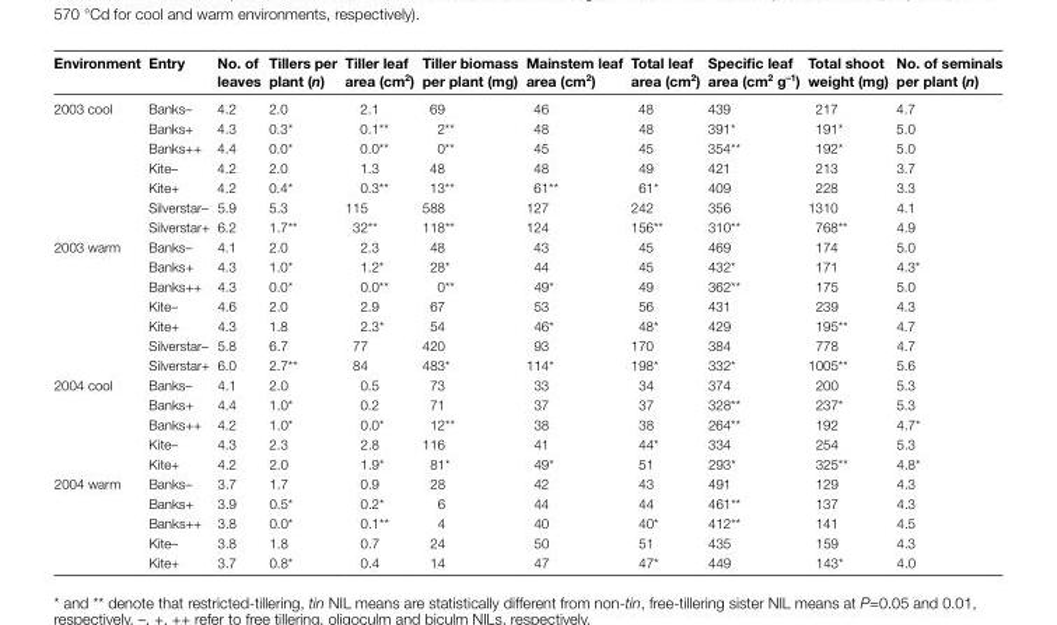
<table><thead><tr><td>Environment</td><td>Entry</td><td>No. of leaves</td><td>Tillers per plant (n)</td><td>Tiller leaf area (cm<sup>2</sup>)</td><td>Tiller biomass per plant (mg)</td><td>Mainstem leaf area (cm<sup>2</sup>)</td><td>Total leaf area (cm<sup>2</sup>)</td><td>Specific leaf area (cm<sup>2</sup> g<sup>–1</sup>)</td><td>Total shoot weight (mg)</td><td>No. of seminals per plant (n)</td></tr></thead><tbody><tr><td rowspan="7">2003 cool</td><td>Banks–</td><td>4.2</td><td>2.0</td><td>2.1</td><td>69</td><td>46</td><td>48</td><td>439</td><td>217</td><td>4.7</td></tr><tr><td>Banks+</td><td>4.3</td><td>0.3*</td><td>0.1**</td><td>2**</td><td>48</td><td>48</td><td>391*</td><td>191*</td><td>5.0</td></tr><tr><td>Banks++</td><td>4.4</td><td>0.0*</td><td>0.0**</td><td>0**</td><td>45</td><td>45</td><td>354**</td><td>192*</td><td>5.0</td></tr><tr><td>Kite–</td><td>4.2</td><td>2.0</td><td>1.3</td><td>48</td><td>48</td><td>49</td><td>421</td><td>213</td><td>3.7</td></tr><tr><td>Kite+</td><td>4.2</td><td>0.4*</td><td>0.3**</td><td>13**</td><td>61**</td><td>61*</td><td>409</td><td>228</td><td>3.3</td></tr><tr><td>Silverstar–</td><td>5.9</td><td>5.3</td><td>115</td><td>588</td><td>127</td><td>242</td><td>356</td><td>1310</td><td>4.1</td></tr><tr><td>Silverstar+</td><td>6.2</td><td>1.7**</td><td>32**</td><td>118**</td><td>124</td><td>156**</td><td>310**</td><td>768**</td><td>4.9</td></tr><tr><td rowspan="7">2003 warm</td><td>Banks–</td><td>4.1</td><td>2.0</td><td>2.3</td><td>48</td><td>43</td><td>45</td><td>469</td><td>174</td><td>5.0</td></tr><tr><td>Banks+</td><td>4.3</td><td>1.0*</td><td>1.2*</td><td>28*</td><td>44</td><td>45</td><td>432*</td><td>171</td><td>4.3*</td></tr><tr><td>Banks++</td><td>4.3</td><td>0.0*</td><td>0.0**</td><td>0**</td><td>49*</td><td>49</td><td>362**</td><td>175</td><td>5.0</td></tr><tr><td>Kite–</td><td>4.6</td><td>2.0</td><td>2.9</td><td>67</td><td>53</td><td>56</td><td>431</td><td>239</td><td>4.3</td></tr><tr><td>Kite+</td><td>4.3</td><td>1.8</td><td>2.3*</td><td>54</td><td>46*</td><td>48*</td><td>429</td><td>195**</td><td>4.7</td></tr><tr><td>Silverstar–</td><td>5.8</td><td>6.7</td><td>77</td><td>420</td><td>93</td><td>170</td><td>384</td><td>778</td><td>4.7</td></tr><tr><td>Silverstar+</td><td>6.0</td><td>2.7**</td><td>84</td><td>483*</td><td>114*</td><td>198*</td><td>332*</td><td>1005**</td><td>5.6</td></tr><tr><td rowspan="5">2004 cool</td><td>Banks–</td><td>4.1</td><td>2.0</td><td>0.5</td><td>73</td><td>33</td><td>34</td><td>374</td><td>200</td><td>5.3</td></tr><tr><td>Banks+</td><td>4.4</td><td>1.0*</td><td>0.2</td><td>71</td><td>37</td><td>37</td><td>328**</td><td>237*</td><td>5.3</td></tr><tr><td>Banks++</td><td>4.2</td><td>1.0*</td><td>0.0*</td><td>12**</td><td>38</td><td>38</td><td>264**</td><td>192</td><td>4.7*</td></tr><tr><td>Kite–</td><td>4.3</td><td>2.3</td><td>2.8</td><td>116</td><td>41</td><td>44*</td><td>334</td><td>254</td><td>5.3</td></tr><tr><td>Kite+</td><td>4.2</td><td>2.0</td><td>1.9*</td><td>81*</td><td>49*</td><td>51</td><td>293*</td><td>325**</td><td>4.8*</td></tr><tr><td rowspan="5">2004 warm</td><td>Banks–</td><td>3.7</td><td>1.7</td><td>0.9</td><td>28</td><td>42</td><td>43</td><td>491</td><td>129</td><td>4.3</td></tr><tr><td>Banks+</td><td>3.9</td><td>0.5*</td><td>0.2*</td><td>6</td><td>44</td><td>44</td><td>461**</td><td>137</td><td>4.3</td></tr><tr><td>Banks++</td><td>3.8</td><td>0.0*</td><td>0.1**</td><td>4</td><td>40</td><td>40*</td><td>412**</td><td>141</td><td>4.5</td></tr><tr><td>Kite–</td><td>3.8</td><td>1.8</td><td>0.7</td><td>24</td><td>50</td><td>51</td><td>435</td><td>159</td><td>4.3</td></tr><tr><td>Kite+</td><td>3.7</td><td>0.8*</td><td>0.4</td><td>14</td><td>47</td><td>47*</td><td>449</td><td>143*</td><td>4.0</td></tr></tbody></table>